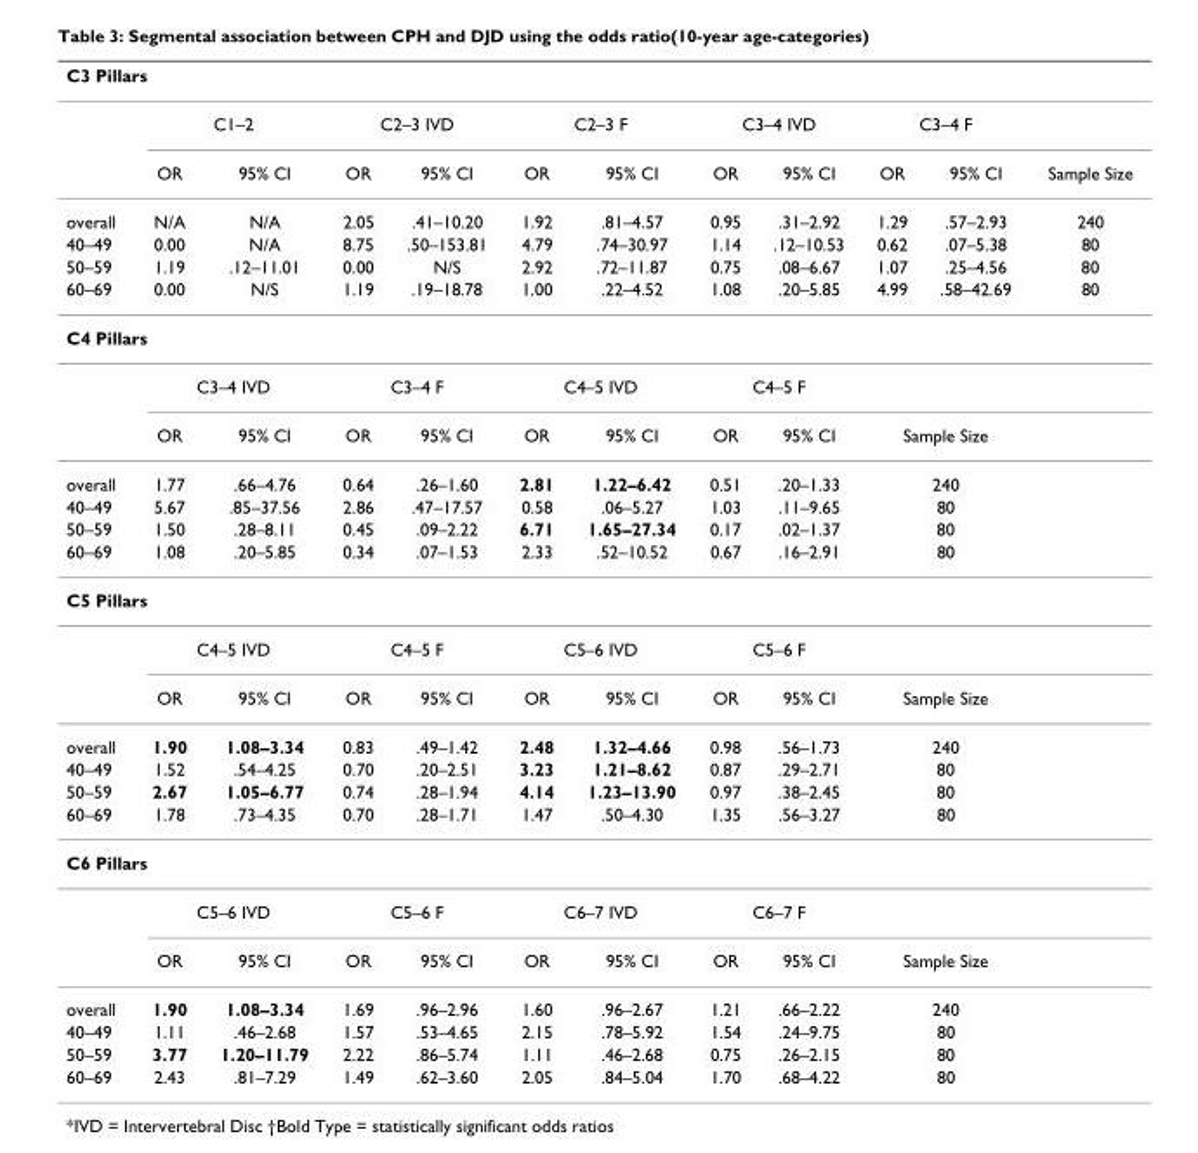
<table><thead><tr><td colspan="12">C3 Pillars</td></tr><tr><td rowspan="2"></td><td colspan="2">C1–2</td><td colspan="2">C2–3 IVD</td><td colspan="2">C2–3 F</td><td colspan="2">C3–4 IVD</td><td colspan="2">C3–4 F</td><td rowspan="2">Sample Size</td></tr><tr><td>OR</td><td>95% CI</td><td>OR</td><td>95% CI</td><td>OR</td><td>95% CI</td><td>OR</td><td>95% CI</td><td>OR</td><td>95% CI</td></tr></thead><tbody><tr><td>overall</td><td>N/A</td><td>N/A</td><td>2.05</td><td>.41–10.20</td><td>1.92</td><td>.81–4.57</td><td>0.95</td><td>.31–2.92</td><td>1.29</td><td>.57–2.93</td><td>240</td></tr><tr><td>40–49</td><td>0.00</td><td>N/A</td><td>8.75</td><td>.50–153.81</td><td>4.79</td><td>.74–30.97</td><td>1.14</td><td>.12–10.53</td><td>0.62</td><td>.07–5.38</td><td>80</td></tr><tr><td>50–59</td><td>1.19</td><td>.12–11.01</td><td>0.00</td><td>N/S</td><td>2.92</td><td>.72–11.87</td><td>0.75</td><td>.08–6.67</td><td>1.07</td><td>.25–4.56</td><td>80</td></tr><tr><td>60–69</td><td>0.00</td><td>N/S</td><td>1.19</td><td>.19–18.78</td><td>1.00</td><td>.22–4.52</td><td>1.08</td><td>.20–5.85</td><td>4.99</td><td>.58–42.69</td><td>80</td></tr><tr><td colspan="12">C4 Pillars</td></tr><tr><td></td><td colspan="2">C3–4 IVD</td><td colspan="2">C3–4 F</td><td colspan="2">C4–5 IVD</td><td colspan="2">C4–5 F</td><td></td><td></td><td></td></tr><tr><td></td><td>OR</td><td>95% CI</td><td>OR</td><td>95% CI</td><td>OR</td><td>95% CI</td><td>OR</td><td>95% CI</td><td colspan="2">Sample Size</td><td></td></tr><tr><td>overall</td><td>1.77</td><td>.66–4.76</td><td>0.64</td><td>.26–1.60</td><td>2.81</td><td>1.22–6.42</td><td>0.51</td><td>.20–1.33</td><td colspan="2">240</td><td></td></tr><tr><td>40–49</td><td>5.67</td><td>.85–37.56</td><td>2.86</td><td>.47–17.57</td><td>0.58</td><td>.06–5.27</td><td>1.03</td><td>.11–9.65</td><td colspan="2">80</td><td></td></tr><tr><td>50–59</td><td>1.50</td><td>.28–8.11</td><td>0.45</td><td>.09–2.22</td><td>6.71</td><td>1.65–27.34</td><td>0.17</td><td>.02–1.37</td><td colspan="2">80</td><td></td></tr><tr><td>60–69</td><td>1.08</td><td>.20–5.85</td><td>0.34</td><td>.07–1.53</td><td>2.33</td><td>.52–10.52</td><td>0.67</td><td>.16–2.91</td><td colspan="2">80</td><td></td></tr><tr><td colspan="12">C5 Pillars</td></tr><tr><td></td><td colspan="2">C4–5 IVD</td><td colspan="2">C4–5 F</td><td colspan="2">C5–6 IVD</td><td colspan="2">C5–6 F</td><td></td><td></td><td></td></tr><tr><td></td><td>OR</td><td>95% CI</td><td>OR</td><td>95% CI</td><td>OR</td><td>95% CI</td><td>OR</td><td>95% CI</td><td colspan="2">Sample Size</td><td></td></tr><tr><td>overall</td><td>1.90</td><td>1.08–3.34</td><td>0.83</td><td>.49–1.42</td><td>2.48</td><td>1.32–4.66</td><td>0.98</td><td>.56–1.73</td><td colspan="2">240</td><td></td></tr><tr><td>40–49</td><td>1.52</td><td>.54–4.25</td><td>0.70</td><td>.20–2.51</td><td>3.23</td><td>1.21–8.62</td><td>0.87</td><td>.29–2.71</td><td colspan="2">80</td><td></td></tr><tr><td>50–59</td><td>2.67</td><td>1.05–6.77</td><td>0.74</td><td>.28–1.94</td><td>4.14</td><td>1.23–13.90</td><td>0.97</td><td>.38–2.45</td><td colspan="2">80</td><td></td></tr><tr><td>60–69</td><td>1.78</td><td>.73–4.35</td><td>0.70</td><td>.28–1.71</td><td>1.47</td><td>.50–4.30</td><td>1.35</td><td>.56–3.27</td><td colspan="2">80</td><td></td></tr><tr><td colspan="12">C6 Pillars</td></tr><tr><td></td><td colspan="2">C5–6 IVD</td><td colspan="2">C5–6 F</td><td colspan="2">C6–7 IVD</td><td colspan="2">C6–7 F</td><td></td><td></td><td></td></tr><tr><td></td><td>OR</td><td>95% CI</td><td>OR</td><td>95% CI</td><td>OR</td><td>95% CI</td><td>OR</td><td>95% CI</td><td colspan="2">Sample Size</td><td></td></tr><tr><td>overall</td><td>1.90</td><td>1.08–3.34</td><td>1.69</td><td>.96–2.96</td><td>1.60</td><td>.96–2.67</td><td>1.21</td><td>.66–2.22</td><td colspan="2">240</td><td></td></tr><tr><td>40–49</td><td>1.11</td><td>.46–2.68</td><td>1.57</td><td>.53–4.65</td><td>2.15</td><td>.78–5.92</td><td>1.54</td><td>.24–9.75</td><td colspan="2">80</td><td></td></tr><tr><td>50–59</td><td>3.77</td><td>1.20–11.79</td><td>2.22</td><td>.86–5.74</td><td>1.11</td><td>.46–2.68</td><td>0.75</td><td>.26–2.15</td><td colspan="2">80</td><td></td></tr><tr><td>60–69</td><td>2.43</td><td>.81–7.29</td><td>1.49</td><td>.62–3.60</td><td>2.05</td><td>.84–5.04</td><td>1.70</td><td>.68–4.22</td><td colspan="2">80</td><td></td></tr></tbody></table>